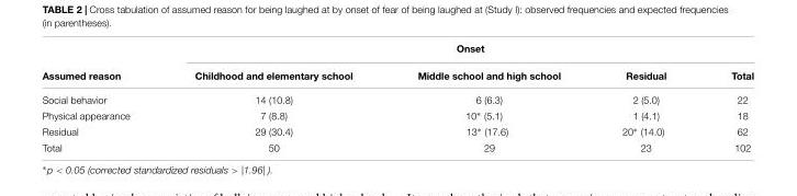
<table><thead><tr><td rowspan="2">Assumed reason</td><td colspan="4">Onset</td></tr><tr><td>Childhood and elementary school</td><td>Middle school and high school</td><td>Residual</td><td>Total</td></tr></thead><tbody><tr><td>Social behavior</td><td>14 (10.8)</td><td>6 (6.3)</td><td>2 (5.0)</td><td>22</td></tr><tr><td>Physical appearance</td><td>7 (8.8)</td><td>10∗ (5.1)</td><td>1 (4.1)</td><td>18</td></tr><tr><td>Residual</td><td>29 (30.4)</td><td>13∗ (17.6)</td><td>20∗ (14.0)</td><td>62</td></tr><tr><td>Total</td><td>50</td><td>29</td><td>23</td><td>102</td></tr></tbody></table>